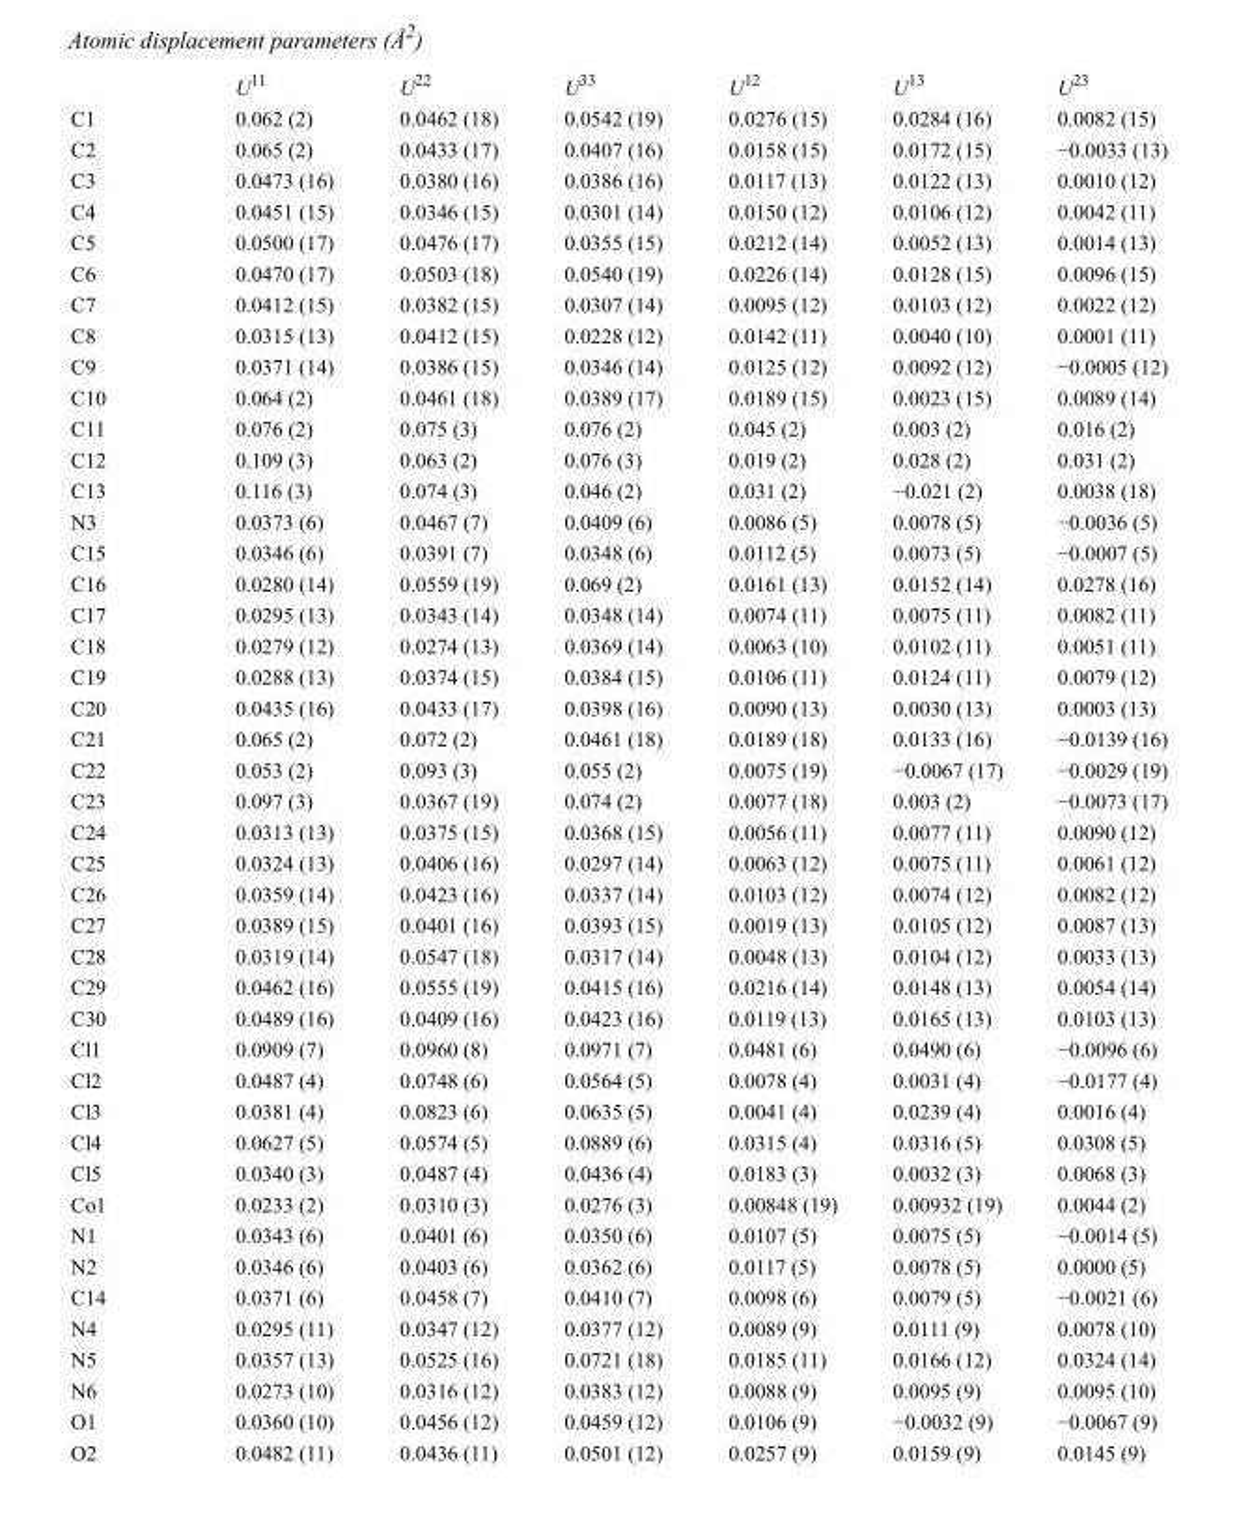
<table><thead><tr><td></td><td>U<sup>11</sup></td><td>U<sup>22</sup></td><td>U<sup>33</sup></td><td>U<sup>12</sup></td><td>U<sup>13</sup></td><td>U<sup>23</sup></td></tr></thead><tbody><tr><td>C1</td><td>0.062 (2)</td><td>0.0462 (18)</td><td>0.0542 (19)</td><td>0.0276 (15)</td><td>0.0284 (16)</td><td>0.0082 (15)</td></tr><tr><td>C2</td><td>0.065 (2)</td><td>0.0433 (17)</td><td>0.0407 (16)</td><td>0.0158 (15)</td><td>0.0172 (15)</td><td>−0.0033 (13)</td></tr><tr><td>C3</td><td>0.0473 (16)</td><td>0.0380 (16)</td><td>0.0386 (16)</td><td>0.0117 (13)</td><td>0.0122 (13)</td><td>0.0010 (12)</td></tr><tr><td>C4</td><td>0.0451 (15)</td><td>0.0346 (15)</td><td>0.0301 (14)</td><td>0.0150 (12)</td><td>0.0106 (12)</td><td>0.0042 (11)</td></tr><tr><td>C5</td><td>0.0500 (17)</td><td>0.0476 (17)</td><td>0.0355 (15)</td><td>0.0212 (14)</td><td>0.0052 (13)</td><td>0.0014 (13)</td></tr><tr><td>C6</td><td>0.0470 (17)</td><td>0.0503 (18)</td><td>0.0540 (19)</td><td>0.0226 (14)</td><td>0.0128 (15)</td><td>0.0096 (15)</td></tr><tr><td>C7</td><td>0.0412 (15)</td><td>0.0382 (15)</td><td>0.0307 (14)</td><td>0.0095 (12)</td><td>0.0103 (12)</td><td>0.0022 (12)</td></tr><tr><td>C8</td><td>0.0315 (13)</td><td>0.0412 (15)</td><td>0.0228 (12)</td><td>0.0142 (11)</td><td>0.0040 (10)</td><td>0.0001 (11)</td></tr><tr><td>C9</td><td>0.0371 (14)</td><td>0.0386 (15)</td><td>0.0346 (14)</td><td>0.0125 (12)</td><td>0.0092 (12)</td><td>−0.0005 (12)</td></tr><tr><td>C10</td><td>0.064 (2)</td><td>0.0461 (18)</td><td>0.0389 (17)</td><td>0.0189 (15)</td><td>0.0023 (15)</td><td>0.0089 (14)</td></tr><tr><td>C11</td><td>0.076 (2)</td><td>0.075 (3)</td><td>0.076 (2)</td><td>0.045 (2)</td><td>0.003 (2)</td><td>0.016 (2)</td></tr><tr><td>C12</td><td>0.109 (3)</td><td>0.063 (2)</td><td>0.076 (3)</td><td>0.019 (2)</td><td>0.028 (2)</td><td>0.031 (2)</td></tr><tr><td>C13</td><td>0.116 (3)</td><td>0.074 (3)</td><td>0.046 (2)</td><td>0.031 (2)</td><td>−0.021 (2)</td><td>0.0038 (18)</td></tr><tr><td>N3</td><td>0.0373 (6)</td><td>0.0467 (7)</td><td>0.0409 (6)</td><td>0.0086 (5)</td><td>0.0078 (5)</td><td>−0.0036 (5)</td></tr><tr><td>C15</td><td>0.0346 (6)</td><td>0.0391 (7)</td><td>0.0348 (6)</td><td>0.0112 (5)</td><td>0.0073 (5)</td><td>−0.0007 (5)</td></tr><tr><td>C16</td><td>0.0280 (14)</td><td>0.0559 (19)</td><td>0.069 (2)</td><td>0.0161 (13)</td><td>0.0152 (14)</td><td>0.0278 (16)</td></tr><tr><td>C17</td><td>0.0295 (13)</td><td>0.0343 (14)</td><td>0.0348 (14)</td><td>0.0074 (11)</td><td>0.0075 (11)</td><td>0.0082 (11)</td></tr><tr><td>C18</td><td>0.0279 (12)</td><td>0.0274 (13)</td><td>0.0369 (14)</td><td>0.0063 (10)</td><td>0.0102 (11)</td><td>0.0051 (11)</td></tr><tr><td>C19</td><td>0.0288 (13)</td><td>0.0374 (15)</td><td>0.0384 (15)</td><td>0.0106 (11)</td><td>0.0124 (11)</td><td>0.0079 (12)</td></tr><tr><td>C20</td><td>0.0435 (16)</td><td>0.0433 (17)</td><td>0.0398 (16)</td><td>0.0090 (13)</td><td>0.0030 (13)</td><td>0.0003 (13)</td></tr><tr><td>C21</td><td>0.065 (2)</td><td>0.072 (2)</td><td>0.0461 (18)</td><td>0.0189 (18)</td><td>0.0133 (16)</td><td>−0.0139 (16)</td></tr><tr><td>C22</td><td>0.053 (2)</td><td>0.093 (3)</td><td>0.055 (2)</td><td>0.0075 (19)</td><td>−0.0067 (17)</td><td>−0.0029 (19)</td></tr><tr><td>C23</td><td>0.097 (3)</td><td>0.0367 (19)</td><td>0.074 (2)</td><td>0.0077 (18)</td><td>0.003 (2)</td><td>−0.0073 (17)</td></tr><tr><td>C24</td><td>0.0313 (13)</td><td>0.0375 (15)</td><td>0.0368 (15)</td><td>0.0056 (11)</td><td>0.0077 (11)</td><td>0.0090 (12)</td></tr><tr><td>C25</td><td>0.0324 (13)</td><td>0.0406 (16)</td><td>0.0297 (14)</td><td>0.0063 (12)</td><td>0.0075 (11)</td><td>0.0061 (12)</td></tr><tr><td>C26</td><td>0.0359 (14)</td><td>0.0423 (16)</td><td>0.0337 (14)</td><td>0.0103 (12)</td><td>0.0074 (12)</td><td>0.0082 (12)</td></tr><tr><td>C27</td><td>0.0389 (15)</td><td>0.0401 (16)</td><td>0.0393 (15)</td><td>0.0019 (13)</td><td>0.0105 (12)</td><td>0.0087 (13)</td></tr><tr><td>C28</td><td>0.0319 (14)</td><td>0.0547 (18)</td><td>0.0317 (14)</td><td>0.0048 (13)</td><td>0.0104 (12)</td><td>0.0033 (13)</td></tr><tr><td>C29</td><td>0.0462 (16)</td><td>0.0555 (19)</td><td>0.0415 (16)</td><td>0.0216 (14)</td><td>0.0148 (13)</td><td>0.0054 (14)</td></tr><tr><td>C30</td><td>0.0489 (16)</td><td>0.0409 (16)</td><td>0.0423 (16)</td><td>0.0119 (13)</td><td>0.0165 (13)</td><td>0.0103 (13)</td></tr><tr><td>Cl1</td><td>0.0909 (7)</td><td>0.0960 (8)</td><td>0.0971 (7)</td><td>0.0481 (6)</td><td>0.0490 (6)</td><td>−0.0096 (6)</td></tr><tr><td>Cl2</td><td>0.0487 (4)</td><td>0.0748 (6)</td><td>0.0564 (5)</td><td>0.0078 (4)</td><td>0.0031 (4)</td><td>−0.0177 (4)</td></tr><tr><td>Cl3</td><td>0.0381 (4)</td><td>0.0823 (6)</td><td>0.0635 (5)</td><td>0.0041 (4)</td><td>0.0239 (4)</td><td>0.0016 (4)</td></tr><tr><td>Cl4</td><td>0.0627 (5)</td><td>0.0574 (5)</td><td>0.0889 (6)</td><td>0.0315 (4)</td><td>0.0316 (5)</td><td>0.0308 (5)</td></tr><tr><td>Cl5</td><td>0.0340 (3)</td><td>0.0487 (4)</td><td>0.0436 (4)</td><td>0.0183 (3)</td><td>0.0032 (3)</td><td>0.0068 (3)</td></tr><tr><td>Co1</td><td>0.0233 (2)</td><td>0.0310 (3)</td><td>0.0276 (3)</td><td>0.00848 (19)</td><td>0.00932 (19)</td><td>0.0044 (2)</td></tr><tr><td>N1</td><td>0.0343 (6)</td><td>0.0401 (6)</td><td>0.0350 (6)</td><td>0.0107 (5)</td><td>0.0075 (5)</td><td>−0.0014 (5)</td></tr><tr><td>N2</td><td>0.0346 (6)</td><td>0.0403 (6)</td><td>0.0362 (6)</td><td>0.0117 (5)</td><td>0.0078 (5)</td><td>0.0000 (5)</td></tr><tr><td>C14</td><td>0.0371 (6)</td><td>0.0458 (7)</td><td>0.0410 (7)</td><td>0.0098 (6)</td><td>0.0079 (5)</td><td>−0.0021 (6)</td></tr><tr><td>N4</td><td>0.0295 (11)</td><td>0.0347 (12)</td><td>0.0377 (12)</td><td>0.0089 (9)</td><td>0.0111 (9)</td><td>0.0078 (10)</td></tr><tr><td>N5</td><td>0.0357 (13)</td><td>0.0525 (16)</td><td>0.0721 (18)</td><td>0.0185 (11)</td><td>0.0166 (12)</td><td>0.0324 (14)</td></tr><tr><td>N6</td><td>0.0273 (10)</td><td>0.0316 (12)</td><td>0.0383 (12)</td><td>0.0088 (9)</td><td>0.0095 (9)</td><td>0.0095 (10)</td></tr><tr><td>O1</td><td>0.0360 (10)</td><td>0.0456 (12)</td><td>0.0459 (12)</td><td>0.0106 (9)</td><td>−0.0032 (9)</td><td>−0.0067 (9)</td></tr><tr><td>O2</td><td>0.0482 (11)</td><td>0.0436 (11)</td><td>0.0501 (12)</td><td>0.0257 (9)</td><td>0.0159 (9)</td><td>0.0145 (9)</td></tr></tbody></table>